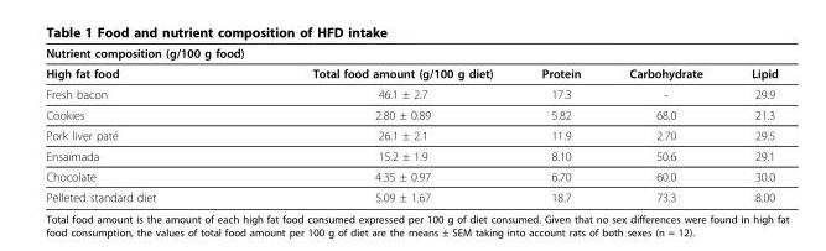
<table><thead><tr><td>Nutrient composition (g/100 g food)</td><td></td><td></td><td></td><td></td></tr></thead><tbody><tr><td>High fat food</td><td>Total food amount (g/100 g diet)</td><td>Protein</td><td>Carbohydrate</td><td>Lipid</td></tr><tr><td>Fresh bacon</td><td>46.1 ± 2.7</td><td>17.3</td><td>-</td><td>29.9</td></tr><tr><td>Cookies</td><td>2.80 ± 0.89</td><td>5.82</td><td>68.0</td><td>21.3</td></tr><tr><td>Pork liver paté</td><td>26.1 ± 2.1</td><td>11.9</td><td>2.70</td><td>29.5</td></tr><tr><td>Ensaïmada</td><td>15.2 ± 1.9</td><td>8.10</td><td>50.6</td><td>29.1</td></tr><tr><td>Chocolate</td><td>4.35 ± 0.97</td><td>6.70</td><td>60.0</td><td>30.0</td></tr><tr><td>Pelleted standard diet</td><td>5.09 ± 1.67</td><td>18.7</td><td>73.3</td><td>8.00</td></tr></tbody></table>